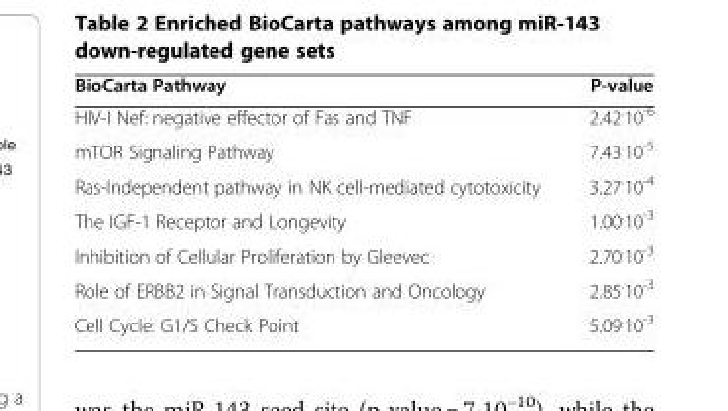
<table><thead><tr><td>BioCarta Pathway</td><td>P-value</td></tr></thead><tbody><tr><td>HIV-I Nef: negative effector of Fas and TNF</td><td>2.42<sup>.</sup>10<sup>-6</sup></td></tr><tr><td>mTOR Signaling Pathway</td><td>7.43<sup>.</sup>10<sup>-5</sup></td></tr><tr><td>Ras-Independent pathway in NK cell-mediated cytotoxicity</td><td>3.27<sup>.</sup>10<sup>-4</sup></td></tr><tr><td>The IGF-1 Receptor and Longevity</td><td>1.00<sup>.</sup>10<sup>-3</sup></td></tr><tr><td>Inhibition of Cellular Proliferation by Gleevec</td><td>2.70<sup>.</sup>10<sup>-3</sup></td></tr><tr><td>Role of ERBB2 in Signal Transduction and Oncology</td><td>2.85<sup>.</sup>10<sup>-3</sup></td></tr><tr><td>Cell Cycle: G1/S Check Point</td><td>5.09<sup>.</sup>10<sup>-3</sup></td></tr></tbody></table>